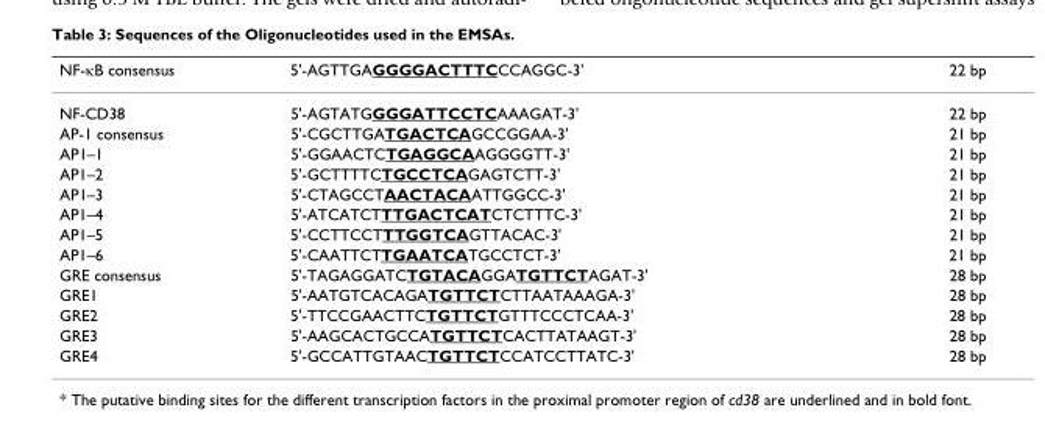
<table><thead><tr><td>NF-κB consensus</td><td>5&#x27;-AGTTGAGGGGACTTTCCCAGGC-3&#x27;</td><td>22 bp</td></tr></thead><tbody><tr><td>NF-CD38</td><td>5&#x27;-AGTATGGGGATTCCTCAAAGAT-3&#x27;</td><td>22 bp</td></tr><tr><td>AP-1 consensus</td><td>5&#x27;-CGCTTGATGACTCAGCCGGAA-3&#x27;</td><td>21 bp</td></tr><tr><td>AP1–1</td><td>5&#x27;-GGAACTCTGAGGCAAGGGGTT-3&#x27;</td><td>21 bp</td></tr><tr><td>AP1–2</td><td>5&#x27;-GCTTTTCTGCCTCAGAGTCTT-3&#x27;</td><td>21 bp</td></tr><tr><td>AP1–3</td><td>5&#x27;-CTAGCCTAACTACAATTGGCC-3&#x27;</td><td>21 bp</td></tr><tr><td>AP1–4</td><td>5&#x27;-ATCATCTTTGACTCATCTCTTTC-3&#x27;</td><td>21 bp</td></tr><tr><td>AP1–5</td><td>5&#x27;-CCTTCCTTTGGTCAGTTACAC-3&#x27;</td><td>21 bp</td></tr><tr><td>AP1–6</td><td>5&#x27;-CAATTCTTGAATCATGCCTCT-3&#x27;</td><td>21 bp</td></tr><tr><td>GRE consensus</td><td>5&#x27;-TAGAGGATCTGTACAGGATGTTCTAGAT-3&#x27;</td><td>28 bp</td></tr><tr><td>GRE1</td><td>5&#x27;-AATGTCACAGATGTTCTCTTAATAAAGA-3&#x27;</td><td>28 bp</td></tr><tr><td>GRE2</td><td>5&#x27;-TTCCGAACTTCTGTTCTGTTTCCCTCAA-3&#x27;</td><td>28 bp</td></tr><tr><td>GRE3</td><td>5&#x27;-AAGCACTGCCATGTTCTCACTTATAAGT-3&#x27;</td><td>28 bp</td></tr><tr><td>GRE4</td><td>5&#x27;-GCCATTGTAACTGTTCTCCATCCTTATC-3&#x27;</td><td>28 bp</td></tr></tbody></table>